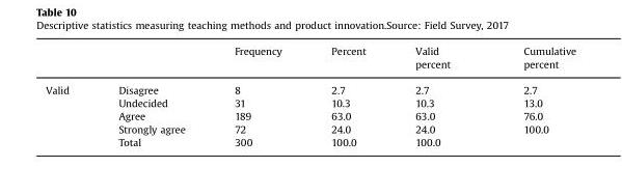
<table><thead><tr><td></td><td></td><td>Frequency</td><td>Percent</td><td>Valid percent</td><td>Cumulative percent</td></tr></thead><tbody><tr><td rowspan="5">Valid</td><td>Disagree</td><td>8</td><td>2.7</td><td>2.7</td><td>2.7</td></tr><tr><td>Undecided</td><td>31</td><td>10.3</td><td>10.3</td><td>13.0</td></tr><tr><td>Agree</td><td>189</td><td>63.0</td><td>63.0</td><td>76.0</td></tr><tr><td>Strongly agree</td><td>72</td><td>24.0</td><td>24.0</td><td>100.0</td></tr><tr><td>Total</td><td>300</td><td>100.0</td><td>100.0</td><td></td></tr></tbody></table>